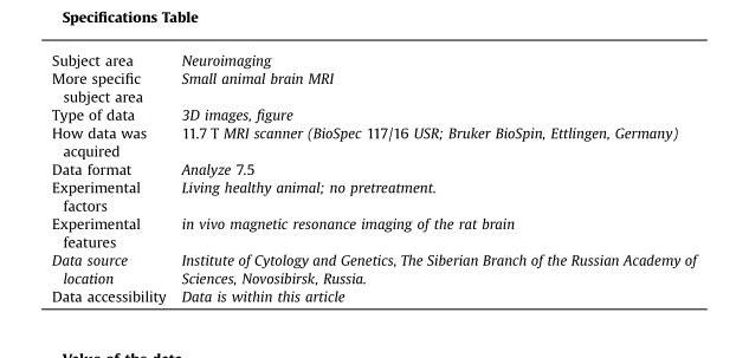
<table><tbody><tr><td>Subject area</td><td>Neuroimaging</td></tr><tr><td>More specific subject area</td><td>Small animal brain MRI</td></tr><tr><td>Type of data</td><td>3D images, figure</td></tr><tr><td>How data was acquired</td><td>11.7 T MRI scanner (BioSpec 117/16 USR; Bruker BioSpin, Ettlingen, Germany)</td></tr><tr><td>Data format</td><td>Analyze 7.5</td></tr><tr><td>Experimental factors</td><td>Living healthy animal; no pretreatment.</td></tr><tr><td>Experimental features</td><td>in vivo magnetic resonance imaging of the rat brain</td></tr><tr><td>Data source location</td><td>Institute of Cytology and Genetics, The Siberian Branch of the Russian Academy of Sciences, Novosibirsk, Russia.</td></tr><tr><td>Data accessibility</td><td>Data is within this article</td></tr></tbody></table>